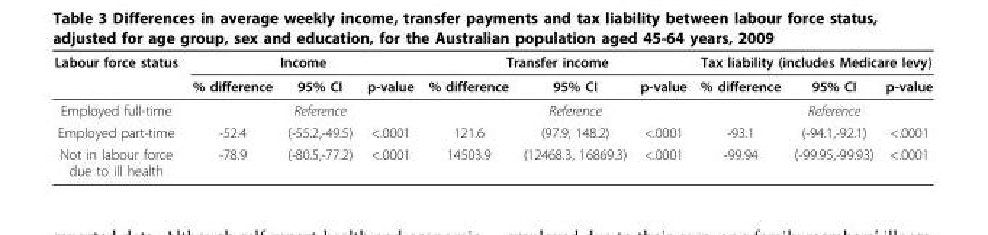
<table><thead><tr><td rowspan="2">Labour force status</td><td colspan="3">Income</td><td colspan="3">Transfer income</td><td colspan="3">Tax liability (includes Medicare levy)</td></tr><tr><td>% difference</td><td>95% CI</td><td>p-value</td><td>% difference</td><td>95% CI</td><td>p-value</td><td>% difference</td><td>95% CI</td><td>p-value</td></tr></thead><tbody><tr><td>Employed full-time</td><td></td><td>Reference</td><td></td><td></td><td>Reference</td><td></td><td></td><td>Reference</td><td></td></tr><tr><td>Employed part-time</td><td>-52.4</td><td>(-55.2,-49.5)</td><td>&lt;.0001</td><td>121.6</td><td>(97.9, 148.2)</td><td>&lt;.0001</td><td>-93.1</td><td>(-94.1,-92.1)</td><td>&lt;.0001</td></tr><tr><td>Not in labour force due to ill health</td><td>-78.9</td><td>(-80.5,-77.2)</td><td>&lt;.0001</td><td>14503.9</td><td>(12468.3, 16869.3)</td><td>&lt;.0001</td><td>-99.94</td><td>(-99.95,-99.93)</td><td>&lt;.0001</td></tr></tbody></table>